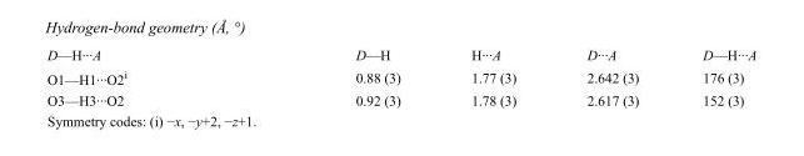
<table><tbody><tr><td>D—H···A</td><td>D—H</td><td>H···A</td><td>D···A</td><td>D—H···A</td></tr><tr><td>O1—H1···O2<sup>i</sup></td><td>0.88 (3)</td><td>1.77 (3)</td><td>2.642 (3)</td><td>176 (3)</td></tr><tr><td>O3—H3···O2</td><td>0.92 (3)</td><td>1.78 (3)</td><td>2.617 (3)</td><td>152 (3)</td></tr></tbody></table>